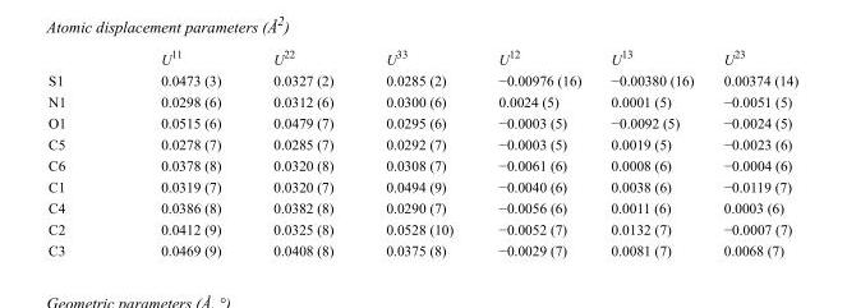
<table><thead><tr><td></td><td>U<sup>11</sup></td><td>U<sup>22</sup></td><td>U<sup>33</sup></td><td>U<sup>12</sup></td><td>U<sup>13</sup></td><td>U<sup>23</sup></td></tr></thead><tbody><tr><td>S1</td><td>0.0473 (3)</td><td>0.0327 (2)</td><td>0.0285 (2)</td><td>−0.00976 (16)</td><td>−0.00380 (16)</td><td>0.00374 (14)</td></tr><tr><td>N1</td><td>0.0298 (6)</td><td>0.0312 (6)</td><td>0.0300 (6)</td><td>0.0024 (5)</td><td>0.0001 (5)</td><td>−0.0051 (5)</td></tr><tr><td>O1</td><td>0.0515 (6)</td><td>0.0479 (7)</td><td>0.0295 (6)</td><td>−0.0003 (5)</td><td>−0.0092 (5)</td><td>−0.0024 (5)</td></tr><tr><td>C5</td><td>0.0278 (7)</td><td>0.0285 (7)</td><td>0.0292 (7)</td><td>−0.0003 (5)</td><td>0.0019 (5)</td><td>−0.0023 (6)</td></tr><tr><td>C6</td><td>0.0378 (8)</td><td>0.0320 (8)</td><td>0.0308 (7)</td><td>−0.0061 (6)</td><td>0.0008 (6)</td><td>−0.0004 (6)</td></tr><tr><td>C1</td><td>0.0319 (7)</td><td>0.0320 (7)</td><td>0.0494 (9)</td><td>−0.0040 (6)</td><td>0.0038 (6)</td><td>−0.0119 (7)</td></tr><tr><td>C4</td><td>0.0386 (8)</td><td>0.0382 (8)</td><td>0.0290 (7)</td><td>−0.0056 (6)</td><td>0.0011 (6)</td><td>0.0003 (6)</td></tr><tr><td>C2</td><td>0.0412 (9)</td><td>0.0325 (8)</td><td>0.0528 (10)</td><td>−0.0052 (7)</td><td>0.0132 (7)</td><td>−0.0007 (7)</td></tr><tr><td>C3</td><td>0.0469 (9)</td><td>0.0408 (8)</td><td>0.0375 (8)</td><td>−0.0029 (7)</td><td>0.0081 (7)</td><td>0.0068 (7)</td></tr></tbody></table>